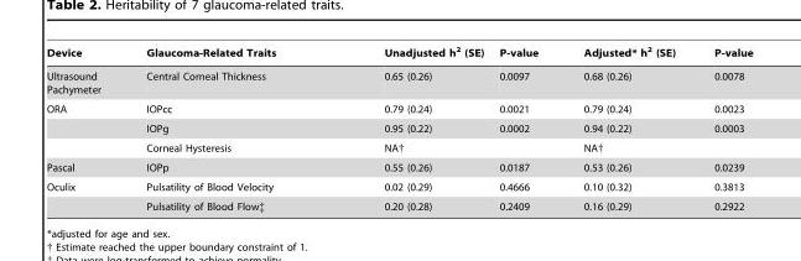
<table><thead><tr><td>Device</td><td>Glaucoma-Related Traits</td><td>Unadjusted h<sup>2</sup> (SE)</td><td>P-value</td><td>Adjusted* h<sup>2</sup> (SE)</td><td>P-value</td></tr></thead><tbody><tr><td>Ultrasound Pachymeter</td><td>Central Corneal Thickness</td><td>0.65 (0.26)</td><td>0.0097</td><td>0.68 (0.26)</td><td>0.0078</td></tr><tr><td rowspan="3">ORA</td><td>IOPcc</td><td>0.79 (0.24)</td><td>0.0021</td><td>0.79 (0.24)</td><td>0.0023</td></tr><tr><td>IOPg</td><td>0.95 (0.22)</td><td>0.0002</td><td>0.94 (0.22)</td><td>0.0003</td></tr><tr><td>Corneal Hysteresis</td><td>NA†</td><td></td><td>NA†</td><td></td></tr><tr><td>Pascal</td><td>IOPp</td><td>0.55 (0.26)</td><td>0.0187</td><td>0.53 (0.26)</td><td>0.0239</td></tr><tr><td rowspan="2">Oculix</td><td>Pulsatility of Blood Velocity</td><td>0.02 (0.29)</td><td>0.4666</td><td>0.10 (0.32)</td><td>0.3813</td></tr><tr><td>Pulsatility of Blood Flow‡</td><td>0.20 (0.28)</td><td>0.2409</td><td>0.16 (0.29)</td><td>0.2922</td></tr></tbody></table>